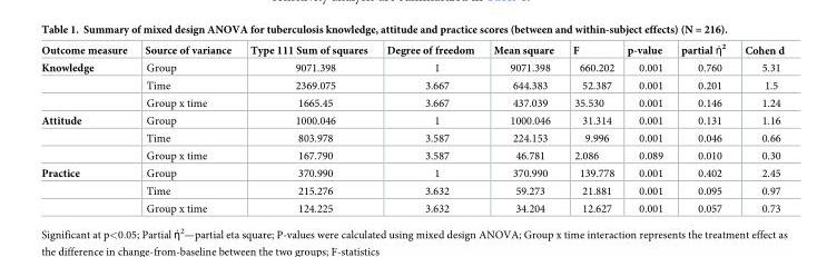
<table><thead><tr><td>Outcome measure</td><td>Source of variance</td><td>Type 111 Sum of squares</td><td>Degree of freedom</td><td>Mean square</td><td>F</td><td>p-value</td><td>partial ἠ<sup>2</sup></td><td>Cohen d</td></tr></thead><tbody><tr><td rowspan="3">Knowledge</td><td>Group</td><td>9071.398</td><td>1</td><td>9071.398</td><td>660.202</td><td>0.001</td><td>0.760</td><td>5.31</td></tr><tr><td>Time</td><td>2369.075</td><td>3.667</td><td>644.383</td><td>52.387</td><td>0.001</td><td>0.201</td><td>1.5</td></tr><tr><td>Group x time</td><td>1665.45</td><td>3.667</td><td>437.039</td><td>35.530</td><td>0.001</td><td>0.146</td><td>1.24</td></tr><tr><td rowspan="3">Attitude</td><td>Group</td><td>1000.046</td><td>1</td><td>1000.046</td><td>31.314</td><td>0.001</td><td>0.131</td><td>1.16</td></tr><tr><td>Time</td><td>803.978</td><td>3.587</td><td>224.153</td><td>9.996</td><td>0.001</td><td>0.046</td><td>0.66</td></tr><tr><td>Group x time</td><td>167.790</td><td>3.587</td><td>46.781</td><td>2.086</td><td>0.089</td><td>0.010</td><td>0.30</td></tr><tr><td rowspan="3">Practice</td><td>Group</td><td>370.990</td><td>1</td><td>370.990</td><td>139.778</td><td>0.001</td><td>0.402</td><td>2.45</td></tr><tr><td>Time</td><td>215.276</td><td>3.632</td><td>59.273</td><td>21.881</td><td>0.001</td><td>0.095</td><td>0.97</td></tr><tr><td>Group x time</td><td>124.225</td><td>3.632</td><td>34.204</td><td>12.627</td><td>0.001</td><td>0.057</td><td>0.73</td></tr></tbody></table>